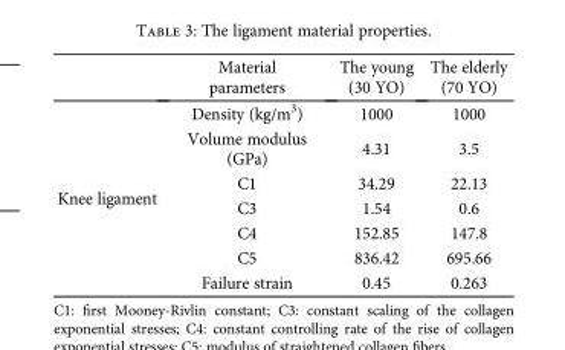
<table><thead><tr><td></td><td>Material parameters</td><td>The young (30 YO)</td><td>The elderly (70 YO)</td></tr></thead><tbody><tr><td rowspan="7">Knee ligament</td><td>Density (kg/m<sup>3</sup>)</td><td>1000</td><td>1000</td></tr><tr><td>Volume modulus (GPa)</td><td>4.31</td><td>3.5</td></tr><tr><td>C1</td><td>34.29</td><td>22.13</td></tr><tr><td>C3</td><td>1.54</td><td>0.6</td></tr><tr><td>C4</td><td>152.85</td><td>147.8</td></tr><tr><td>C5</td><td>836.42</td><td>695.66</td></tr><tr><td>Failure strain</td><td>0.45</td><td>0.263</td></tr></tbody></table>